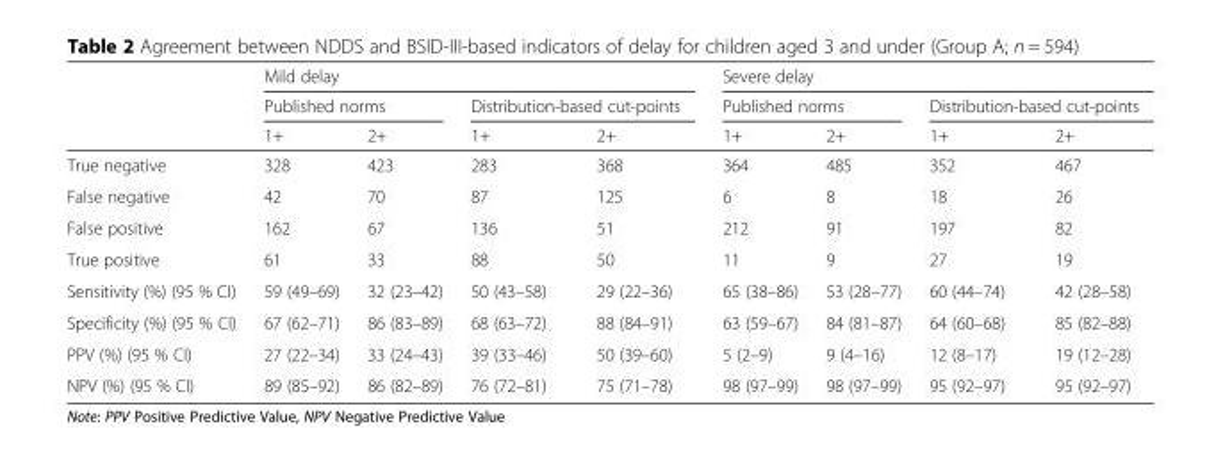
<table><thead><tr><td rowspan="3"></td><td colspan="4">Mild delay</td><td colspan="4">Severe delay</td></tr><tr><td colspan="2">Published norms</td><td colspan="2">Distribution-based cut-points</td><td colspan="2">Published norms</td><td colspan="2">Distribution-based cut-points</td></tr><tr><td>1+</td><td>2+</td><td>1+</td><td>2+</td><td>1+</td><td>2+</td><td>1+</td><td>2+</td></tr></thead><tbody><tr><td>True negative</td><td>328</td><td>423</td><td>283</td><td>368</td><td>364</td><td>485</td><td>352</td><td>467</td></tr><tr><td>False negative</td><td>42</td><td>70</td><td>87</td><td>125</td><td>6</td><td>8</td><td>18</td><td>26</td></tr><tr><td>False positive</td><td>162</td><td>67</td><td>136</td><td>51</td><td>212</td><td>91</td><td>197</td><td>82</td></tr><tr><td>True positive</td><td>61</td><td>33</td><td>88</td><td>50</td><td>11</td><td>9</td><td>27</td><td>19</td></tr><tr><td>Sensitivity (%) (95 % CI)</td><td>59 (49–69)</td><td>32 (23–42)</td><td>50 (43–58)</td><td>29 (22–36)</td><td>65 (38–86)</td><td>53 (28–77)</td><td>60 (44–74)</td><td>42 (28–58)</td></tr><tr><td>Specificity (%) (95 % CI)</td><td>67 (62–71)</td><td>86 (83–89)</td><td>68 (63–72)</td><td>88 (84–91)</td><td>63 (59–67)</td><td>84 (81–87)</td><td>64 (60–68)</td><td>85 (82–88)</td></tr><tr><td>PPV (%) (95 % CI)</td><td>27 (22–34)</td><td>33 (24–43)</td><td>39 (33–46)</td><td>50 (39–60)</td><td>5 (2–9)</td><td>9 (4–16)</td><td>12 (8–17)</td><td>19 (12–28)</td></tr><tr><td>NPV (%) (95 % CI)</td><td>89 (85–92)</td><td>86 (82–89)</td><td>76 (72–81)</td><td>75 (71–78)</td><td>98 (97–99)</td><td>98 (97–99)</td><td>95 (92–97)</td><td>95 (92–97)</td></tr></tbody></table>